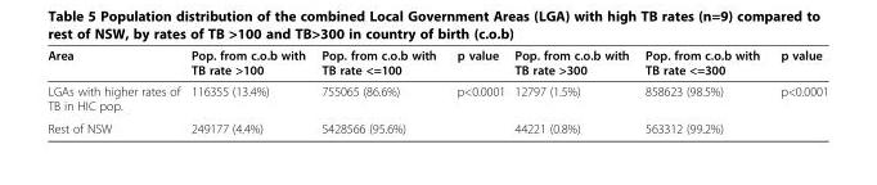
<table><thead><tr><td>Area</td><td>Pop. from c.o.b with TB rate &gt;100</td><td>Pop. from c.o.b with TB rate &lt;=100</td><td>p value</td><td>Pop. from c.o.b with TB rate &gt;300</td><td>Pop. from c.o.b with TB rate &lt;=300</td><td>p value</td></tr></thead><tbody><tr><td>LGAs with higher rates of TB in HIC pop.</td><td>116355 (13.4%)</td><td>755065 (86.6%)</td><td>p&lt;0.0001</td><td>12797 (1.5%)</td><td>858623 (98.5%)</td><td>p&lt;0.0001</td></tr><tr><td>Rest of NSW</td><td>249177 (4.4%)</td><td>5428566 (95.6%)</td><td></td><td>44221 (0.8%)</td><td>563312 (99.2%)</td><td></td></tr></tbody></table>